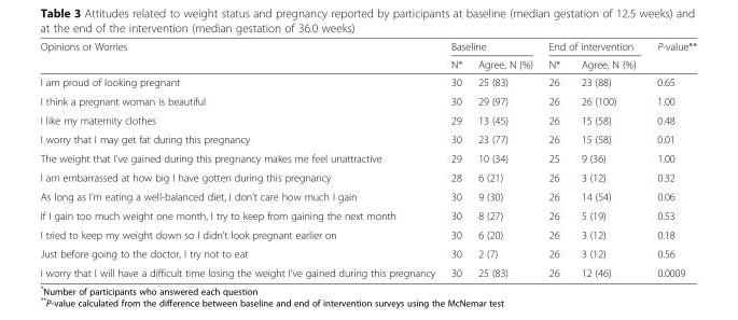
<table><thead><tr><td rowspan="2">Opinions or Worries</td><td colspan="2">Baseline</td><td colspan="2">End of intervention</td><td rowspan="2">P-value**</td></tr><tr><td>N*</td><td>Agree, N (%)</td><td>N*</td><td>Agree, N (%)</td></tr></thead><tbody><tr><td>I am proud of looking pregnant</td><td>30</td><td>25 (83)</td><td>26</td><td>23 (88)</td><td>0.65</td></tr><tr><td>I think a pregnant woman is beautiful</td><td>30</td><td>29 (97)</td><td>26</td><td>26 (100)</td><td>1.00</td></tr><tr><td>I like my maternity clothes</td><td>29</td><td>13 (45)</td><td>26</td><td>15 (58)</td><td>0.48</td></tr><tr><td>I worry that I may get fat during this pregnancy</td><td>30</td><td>23 (77)</td><td>26</td><td>15 (58)</td><td>0.01</td></tr><tr><td>The weight that I’ve gained during this pregnancy makes me feel unattractive</td><td>29</td><td>10 (34)</td><td>25</td><td>9 (36)</td><td>1.00</td></tr><tr><td>I am embarrassed at how big I have gotten during this pregnancy</td><td>28</td><td>6 (21)</td><td>26</td><td>3 (12)</td><td>0.32</td></tr><tr><td>As long as I’m eating a well-balanced diet, I don’t care how much I gain</td><td>30</td><td>9 (30)</td><td>26</td><td>14 (54)</td><td>0.06</td></tr><tr><td>If I gain too much weight one month, I try to keep from gaining the next month</td><td>30</td><td>8 (27)</td><td>26</td><td>5 (19)</td><td>0.53</td></tr><tr><td>I tried to keep my weight down so I didn’t look pregnant earlier on</td><td>30</td><td>6 (20)</td><td>26</td><td>3 (12)</td><td>0.18</td></tr><tr><td>Just before going to the doctor, I try not to eat</td><td>30</td><td>2 (7)</td><td>26</td><td>3 (12)</td><td>0.56</td></tr><tr><td>I worry that I will have a difficult time losing the weight I’ve gained during this pregnancy</td><td>30</td><td>25 (83)</td><td>26</td><td>12 (46)</td><td>0.0009</td></tr></tbody></table>